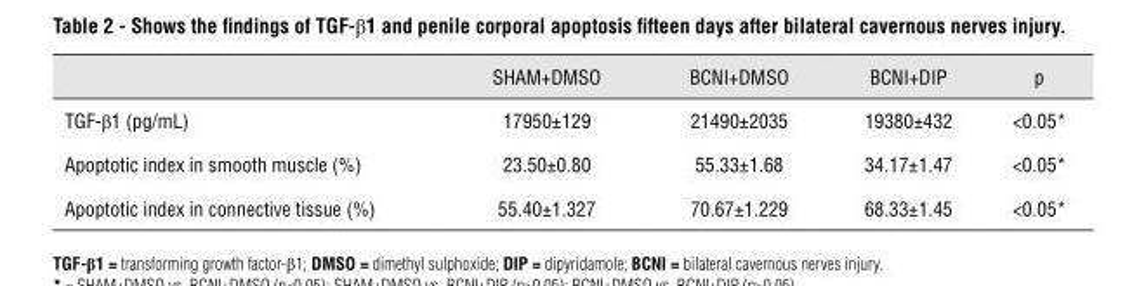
<table><thead><tr><td></td><td>SHAM+DMSO</td><td>BCNI+DMSO</td><td>BCNI+DIP</td><td>p</td></tr></thead><tbody><tr><td>TGF-β1 (pg/mL)</td><td>17950±129</td><td>21490±2035</td><td>19380±432</td><td>&lt;0.05*</td></tr><tr><td>Apoptotic index in smooth muscle (%)</td><td>23.50±0.80</td><td>55.33±1.68</td><td>34.17±1.47</td><td>&lt;0.05*</td></tr><tr><td>Apoptotic index in connective tissue (%)</td><td>55.40±1.327</td><td>70.67±1.229</td><td>68.33±1.45</td><td>&lt;0.05*</td></tr></tbody></table>